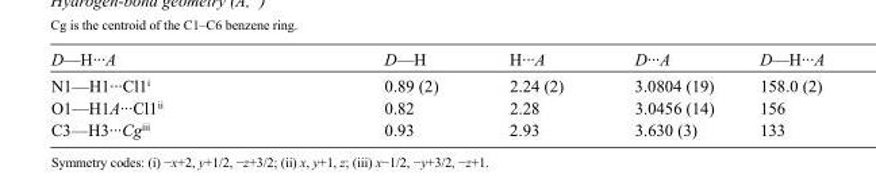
<table><tbody><tr><td>D—H···A</td><td>D—H</td><td>H···A</td><td>D···A</td><td>D—H···A</td></tr><tr><td>N1—H1···Cl1<sup>i</sup></td><td>0.89 (2)</td><td>2.24 (2)</td><td>3.0804 (19)</td><td>158.0 (2)</td></tr><tr><td>O1—H1A···Cl1<sup>ii</sup></td><td>0.82</td><td>2.28</td><td>3.0456 (14)</td><td>156</td></tr><tr><td>C3—H3···Cg<sup>iii</sup></td><td>0.93</td><td>2.93</td><td>3.630 (3)</td><td>133</td></tr></tbody></table>